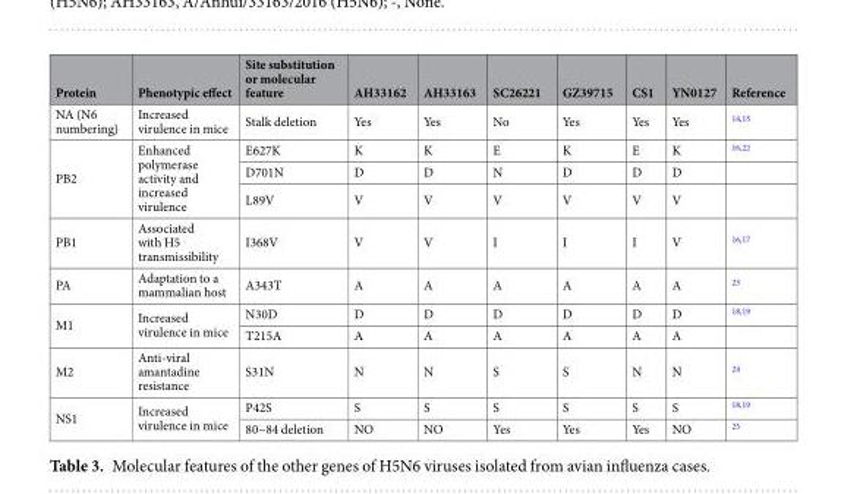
<table><thead><tr><td>Protein</td><td>Phenotypic effect</td><td>Site substitution or molecular feature</td><td>AH33162</td><td>AH33163</td><td>SC26221</td><td>GZ39715</td><td>CS1</td><td>YN0127</td><td>Reference</td></tr></thead><tbody><tr><td>NA (N6 numbering)</td><td>Increased virulence in mice</td><td>Stalk deletion</td><td>Yes</td><td>Yes</td><td>No</td><td>Yes</td><td>Yes</td><td>Yes</td><td><sup>14,15</sup></td></tr><tr><td rowspan="3">PB2</td><td rowspan="3">Enhanced polymerase activity and increased virulence</td><td>E627K</td><td>K</td><td>K</td><td>E</td><td>K</td><td>E</td><td>K</td><td><sup>16,22</sup></td></tr><tr><td>D701N</td><td>D</td><td>D</td><td>N</td><td>D</td><td>D</td><td>D</td><td></td></tr><tr><td>L89V</td><td>V</td><td>V</td><td>V</td><td>V</td><td>V</td><td>V</td><td></td></tr><tr><td>PB1</td><td>Associated with H5 transmissibility</td><td>I368V</td><td>V</td><td>V</td><td>I</td><td>I</td><td>I</td><td>V</td><td><sup>16,17</sup></td></tr><tr><td>PA</td><td>Adaptation to a mammalian host</td><td>A343T</td><td>A</td><td>A</td><td>A</td><td>A</td><td>A</td><td>A</td><td><sup>23</sup></td></tr><tr><td rowspan="2">M1</td><td rowspan="2">Increased virulence in mice</td><td>N30D</td><td>D</td><td>D</td><td>D</td><td>D</td><td>D</td><td>D</td><td><sup>18,19</sup></td></tr><tr><td>T215A</td><td>A</td><td>A</td><td>A</td><td>A</td><td>A</td><td>A</td><td></td></tr><tr><td>M2</td><td>Anti-viral amantadine resistance</td><td>S31N</td><td>N</td><td>N</td><td>S</td><td>S</td><td>N</td><td>N</td><td><sup>24</sup></td></tr><tr><td rowspan="2">NS1</td><td rowspan="2">Increased virulence in mice</td><td>P42S</td><td>S</td><td>S</td><td>S</td><td>S</td><td>S</td><td>S</td><td><sup>18,19</sup></td></tr><tr><td>80~84 deletion</td><td>NO</td><td>NO</td><td>Yes</td><td>Yes</td><td>Yes</td><td>NO</td><td><sup>25</sup></td></tr></tbody></table>